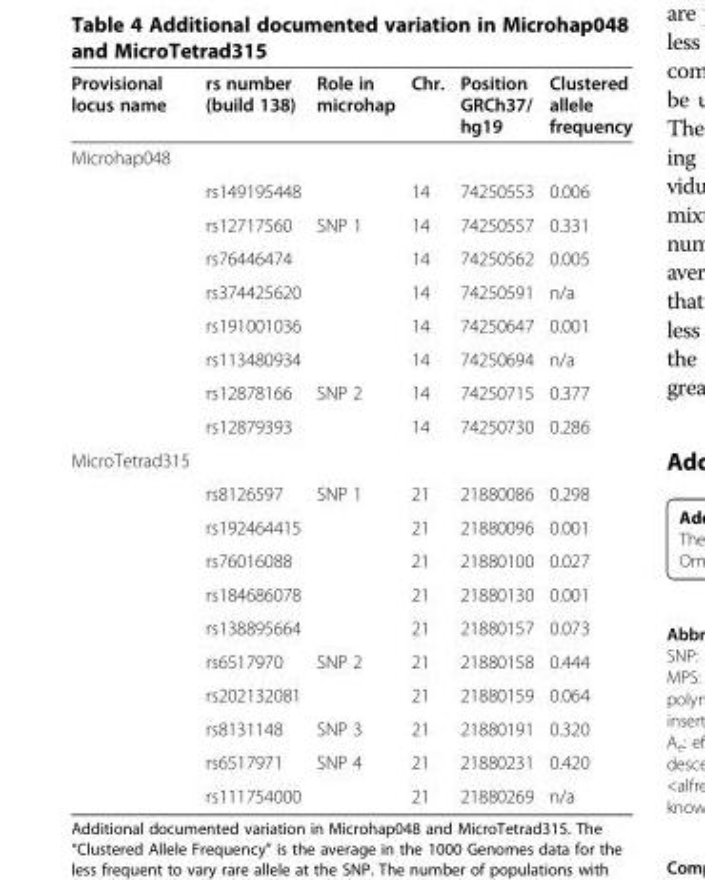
<table><thead><tr><td>Provisional locus name</td><td>rs number (build 138)</td><td>Role in microhap</td><td>Chr.</td><td>Position GRCh37/ hg19</td><td>Clustered allele frequency</td></tr></thead><tbody><tr><td colspan="6">Microhap048</td></tr><tr><td></td><td>rs149195448</td><td></td><td>14</td><td>74250553</td><td>0.006</td></tr><tr><td></td><td>rs12717560</td><td>SNP 1</td><td>14</td><td>74250557</td><td>0.331</td></tr><tr><td></td><td>rs76446474</td><td></td><td>14</td><td>74250562</td><td>0.005</td></tr><tr><td></td><td>rs374425620</td><td></td><td>14</td><td>74250591</td><td>n/a</td></tr><tr><td></td><td>rs191001036</td><td></td><td>14</td><td>74250647</td><td>0.001</td></tr><tr><td></td><td>rs113480934</td><td></td><td>14</td><td>74250694</td><td>n/a</td></tr><tr><td></td><td>rs12878166</td><td>SNP 2</td><td>14</td><td>74250715</td><td>0.377</td></tr><tr><td></td><td>rs12879393</td><td></td><td>14</td><td>74250730</td><td>0.286</td></tr><tr><td colspan="6">MicroTetrad315</td></tr><tr><td></td><td>rs8126597</td><td>SNP 1</td><td>21</td><td>21880086</td><td>0.298</td></tr><tr><td></td><td>rs192464415</td><td></td><td>21</td><td>21880096</td><td>0.001</td></tr><tr><td></td><td>rs76016088</td><td></td><td>21</td><td>21880100</td><td>0.027</td></tr><tr><td></td><td>rs184686078</td><td></td><td>21</td><td>21880130</td><td>0.001</td></tr><tr><td></td><td>rs138895664</td><td></td><td>21</td><td>21880157</td><td>0.073</td></tr><tr><td></td><td>rs6517970</td><td>SNP 2</td><td>21</td><td>21880158</td><td>0.444</td></tr><tr><td></td><td>rs202132081</td><td></td><td>21</td><td>21880159</td><td>0.064</td></tr><tr><td></td><td>rs8131148</td><td>SNP 3</td><td>21</td><td>21880191</td><td>0.320</td></tr><tr><td></td><td>rs6517971</td><td>SNP 4</td><td>21</td><td>21880231</td><td>0.420</td></tr><tr><td></td><td>rs111754000</td><td></td><td>21</td><td>21880269</td><td>n/a</td></tr></tbody></table>